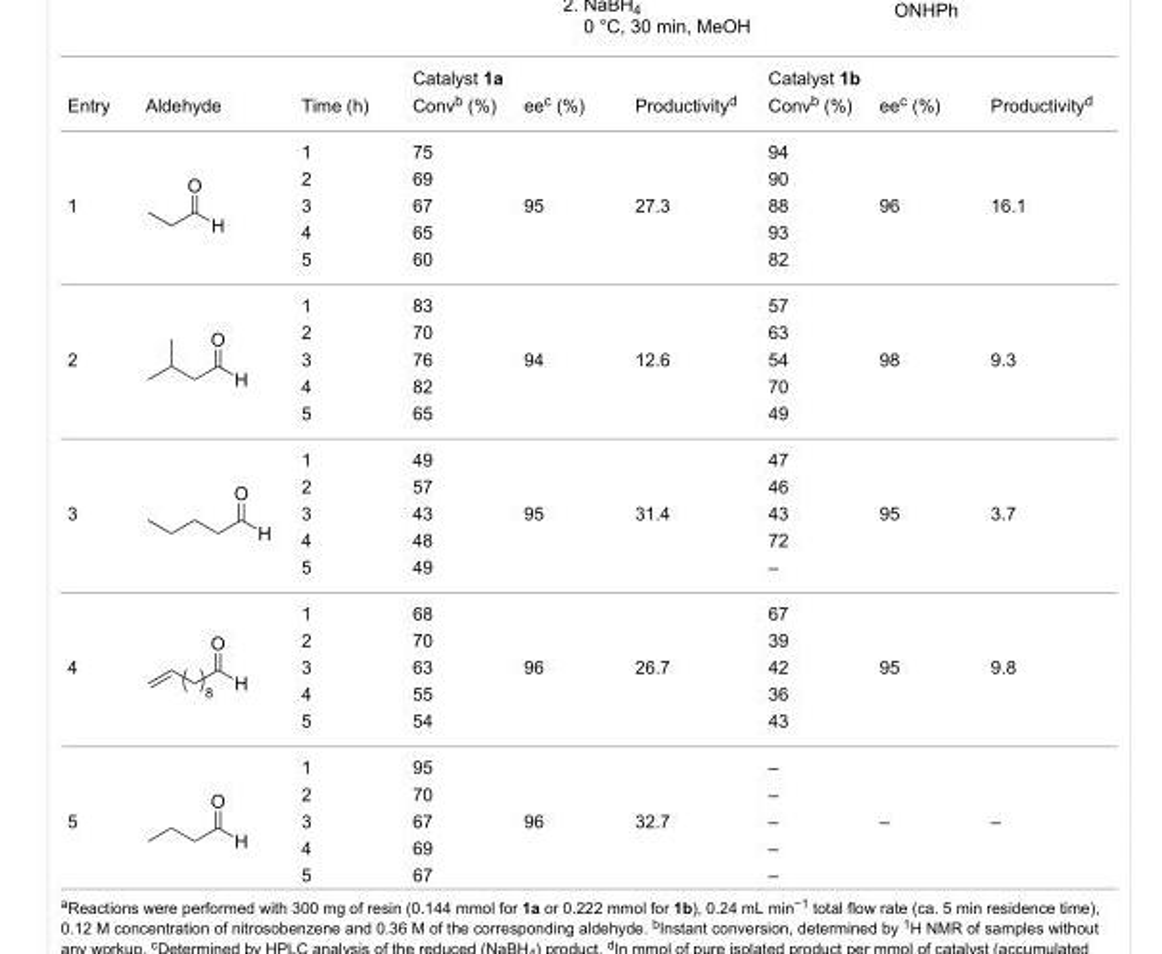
<table><thead><tr><td rowspan="2">Entry</td><td rowspan="2">Aldehyde</td><td rowspan="2">Time (h)</td><td colspan="3">Catalyst 1a</td><td colspan="3">Catalyst 1b</td></tr><tr><td>Conv<sup>b</sup> (%)</td><td>ee<sup>c</sup> (%)</td><td>Productivity<sup>d</sup></td><td>Conv<sup>b</sup> (%)</td><td>ee<sup>c</sup> (%)</td><td>Productivity<sup>d</sup></td></tr></thead><tbody><tr><td rowspan="5">1</td><td rowspan="5"></td><td>1</td><td>75</td><td rowspan="5">95</td><td rowspan="5">27.3</td><td>94</td><td rowspan="5">96</td><td rowspan="5">16.1</td></tr><tr><td>2</td><td>69</td><td>90</td></tr><tr><td>3</td><td>67</td><td>88</td></tr><tr><td>4</td><td>65</td><td>93</td></tr><tr><td>5</td><td>60</td><td>82</td></tr><tr><td rowspan="5">2</td><td rowspan="5"></td><td>1</td><td>83</td><td rowspan="5">94</td><td rowspan="5">12.6</td><td>57</td><td rowspan="5">98</td><td rowspan="5">9.3</td></tr><tr><td>2</td><td>70</td><td>63</td></tr><tr><td>3</td><td>76</td><td>54</td></tr><tr><td>4</td><td>82</td><td>70</td></tr><tr><td>5</td><td>65</td><td>49</td></tr><tr><td rowspan="5">3</td><td rowspan="5"></td><td>1</td><td>49</td><td rowspan="5">95</td><td rowspan="5">31.4</td><td>47</td><td rowspan="5">95</td><td rowspan="5">3.7</td></tr><tr><td>2</td><td>57</td><td>46</td></tr><tr><td>3</td><td>43</td><td>43</td></tr><tr><td>4</td><td>48</td><td>72</td></tr><tr><td>5</td><td>49</td><td>–</td></tr><tr><td rowspan="5">4</td><td rowspan="5"></td><td>1</td><td>68</td><td rowspan="5">96</td><td rowspan="5">26.7</td><td>67</td><td rowspan="5">95</td><td rowspan="5">9.8</td></tr><tr><td>2</td><td>70</td><td>39</td></tr><tr><td>3</td><td>63</td><td>42</td></tr><tr><td>4</td><td>55</td><td>36</td></tr><tr><td>5</td><td>54</td><td>43</td></tr><tr><td rowspan="5">5</td><td rowspan="5"></td><td>1</td><td>95</td><td rowspan="5">96</td><td rowspan="5">32.7</td><td>–</td><td rowspan="5">–</td><td rowspan="5">–</td></tr><tr><td>2</td><td>70</td><td>–</td></tr><tr><td>3</td><td>67</td><td>–</td></tr><tr><td>4</td><td>69</td><td>–</td></tr><tr><td>5</td><td>67</td><td>–</td></tr></tbody></table>